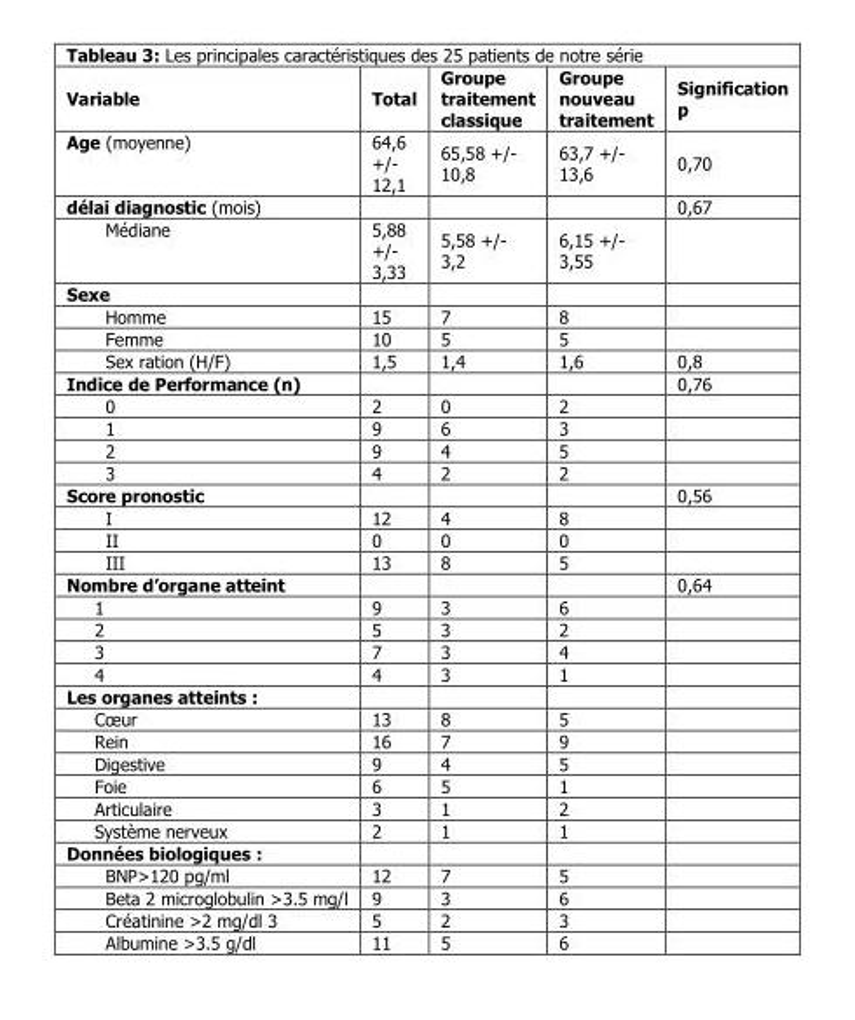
<table><thead><tr><td>Variable</td><td>Total</td><td>Groupe traitement classique</td><td>Groupe nouveau traitement</td><td>Signification p</td></tr></thead><tbody><tr><td>Age (moyenne)</td><td>64,6 +/- 12,1</td><td>65,58 +/- 10,8</td><td>63,7 +/- 13,6</td><td>0,70</td></tr><tr><td>délai diagnostic (mois)</td><td></td><td></td><td></td><td>0,67</td></tr><tr><td>Médiane</td><td>5,88 +/- 3,33</td><td>5,58 +/- 3,2</td><td>6,15 +/- 3,55</td><td></td></tr><tr><td colspan="5">Sexe</td></tr><tr><td>Homme</td><td>15</td><td>7</td><td>8</td><td></td></tr><tr><td>Femme</td><td>10</td><td>5</td><td>5</td><td></td></tr><tr><td>Sex ration (H/F)</td><td>1,5</td><td>1,4</td><td>1,6</td><td>0,8</td></tr><tr><td>Indice de Performance (n)</td><td></td><td></td><td></td><td>0,76</td></tr><tr><td>0</td><td>2</td><td>0</td><td>2</td><td></td></tr><tr><td>1</td><td>9</td><td>6</td><td>3</td><td></td></tr><tr><td>2</td><td>9</td><td>4</td><td>5</td><td></td></tr><tr><td>3</td><td>4</td><td>2</td><td>2</td><td></td></tr><tr><td>Score pronostic</td><td></td><td></td><td></td><td>0,56</td></tr><tr><td>I</td><td>12</td><td>4</td><td>8</td><td></td></tr><tr><td>II</td><td>0</td><td>0</td><td>0</td><td></td></tr><tr><td>III</td><td>13</td><td>8</td><td>5</td><td></td></tr><tr><td>Nombre d’organe atteint</td><td></td><td></td><td></td><td>0,64</td></tr><tr><td>1</td><td>9</td><td>3</td><td>6</td><td></td></tr><tr><td>2</td><td>5</td><td>3</td><td>2</td><td></td></tr><tr><td>3</td><td>7</td><td>3</td><td>4</td><td></td></tr><tr><td>4</td><td>4</td><td>3</td><td>1</td><td></td></tr><tr><td colspan="5">Les organes atteints :</td></tr><tr><td>Cœur</td><td>13</td><td>8</td><td>5</td><td></td></tr><tr><td>Rein</td><td>16</td><td>7</td><td>9</td><td></td></tr><tr><td>Digestive</td><td>9</td><td>4</td><td>5</td><td></td></tr><tr><td>Foie</td><td>6</td><td>5</td><td>1</td><td></td></tr><tr><td>Articulaire</td><td>3</td><td>1</td><td>2</td><td></td></tr><tr><td>Système nerveux</td><td>2</td><td>1</td><td>1</td><td></td></tr><tr><td colspan="5">Données biologiques :</td></tr><tr><td>BNP&gt;120 pg/ml</td><td>12</td><td>7</td><td>5</td><td></td></tr><tr><td>Beta 2 microglobulin &gt;3.5 mg/l</td><td>9</td><td>3</td><td>6</td><td></td></tr><tr><td>Créatinine &gt;2 mg/dl 3</td><td>5</td><td>2</td><td>3</td><td></td></tr><tr><td>Albumine &gt;3.5 g/dl</td><td>11</td><td>5</td><td>6</td><td></td></tr></tbody></table>